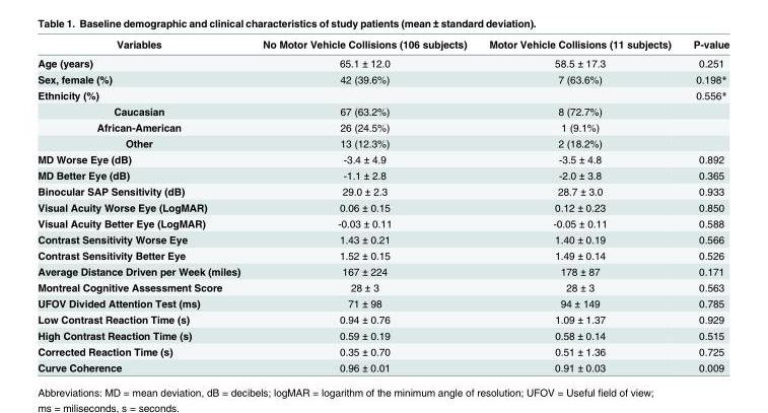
<table><thead><tr><td>Variables</td><td>No Motor Vehicle Collisions (106 subjects)</td><td>Motor Vehicle Collisions (11 subjects)</td><td>P-value</td></tr></thead><tbody><tr><td>Age (years)</td><td>65.1 ± 12.0</td><td>58.5 ± 17.3</td><td>0.251</td></tr><tr><td>Sex, female (%)</td><td>42 (39.6%)</td><td>7 (63.6%)</td><td>0.198*</td></tr><tr><td>Ethnicity (%)</td><td></td><td></td><td>0.556*</td></tr><tr><td>Caucasian</td><td>67 (63.2%)</td><td>8 (72.7%)</td><td></td></tr><tr><td>African-American</td><td>26 (24.5%)</td><td>1 (9.1%)</td><td></td></tr><tr><td>Other</td><td>13 (12.3%)</td><td>2 (18.2%)</td><td></td></tr><tr><td>MD Worse Eye (dB)</td><td>-3.4 ± 4.9</td><td>-3.5 ± 4.8</td><td>0.892</td></tr><tr><td>MD Better Eye (dB)</td><td>-1.1 ± 2.8</td><td>-2.0 ± 3.8</td><td>0.365</td></tr><tr><td>Binocular SAP Sensitivity (dB)</td><td>29.0 ± 2.3</td><td>28.7 ± 3.0</td><td>0.933</td></tr><tr><td>Visual Acuity Worse Eye (LogMAR)</td><td>0.06 ± 0.15</td><td>0.12 ± 0.23</td><td>0.850</td></tr><tr><td>Visual Acuity Better Eye (LogMAR)</td><td>-0.03 ± 0.11</td><td>-0.05 ± 0.11</td><td>0.588</td></tr><tr><td>Contrast Sensitivity Worse Eye</td><td>1.43 ± 0.21</td><td>1.40 ± 0.19</td><td>0.566</td></tr><tr><td>Contrast Sensitivity Better Eye</td><td>1.52 ± 0.15</td><td>1.49 ± 0.14</td><td>0.526</td></tr><tr><td>Average Distance Driven per Week (miles)</td><td>167 ± 224</td><td>178 ± 87</td><td>0.171</td></tr><tr><td>Montreal Cognitive Assessment Score</td><td>28 ± 3</td><td>28 ± 3</td><td>0.563</td></tr><tr><td>UFOV Divided Attention Test (ms)</td><td>71 ± 98</td><td>94 ± 149</td><td>0.785</td></tr><tr><td>Low Contrast Reaction Time (s)</td><td>0.94 ± 0.76</td><td>1.09 ± 1.37</td><td>0.929</td></tr><tr><td>High Contrast Reaction Time (s)</td><td>0.59 ± 0.19</td><td>0.58 ± 0.14</td><td>0.515</td></tr><tr><td>Corrected Reaction Time (s)</td><td>0.35 ± 0.70</td><td>0.51 ± 1.36</td><td>0.725</td></tr><tr><td>Curve Coherence</td><td>0.96 ± 0.01</td><td>0.91 ± 0.03</td><td>0.009</td></tr></tbody></table>